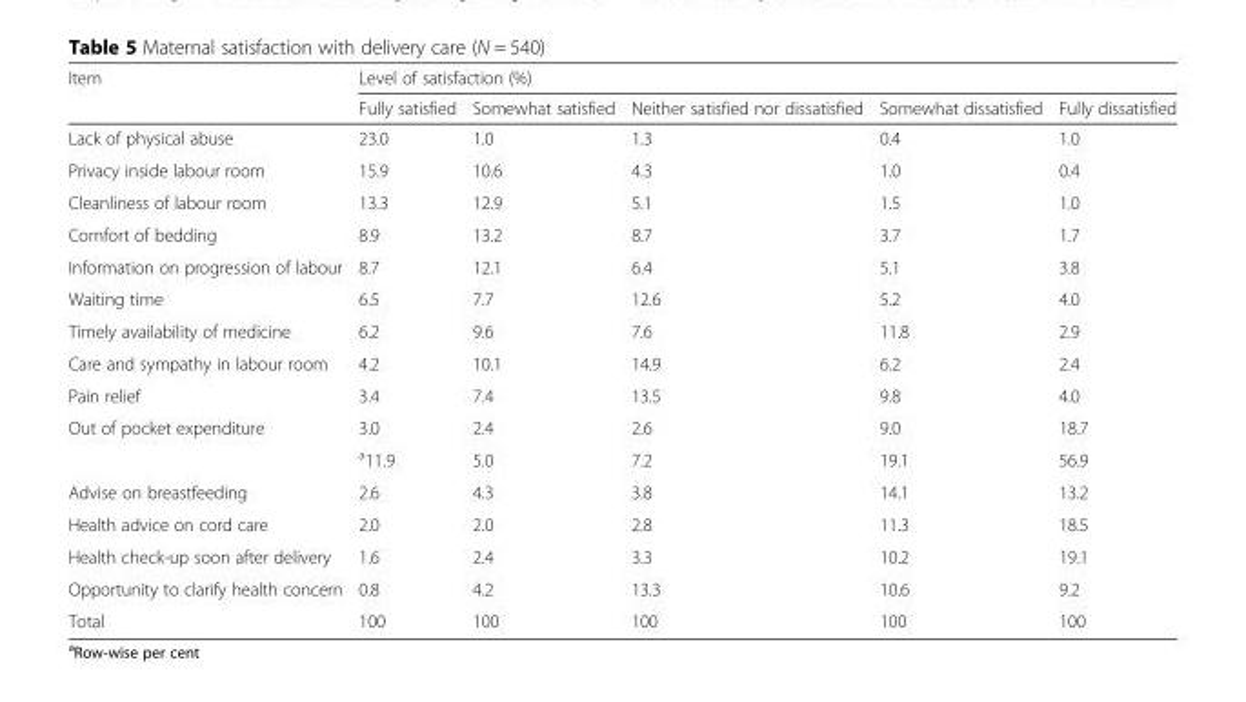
<table><thead><tr><td rowspan="2">Item</td><td colspan="5">Level of satisfaction (%)</td></tr><tr><td>Fully satisfied</td><td>Somewhat satisfied</td><td>Neither satisfied nor dissatisfied</td><td>Somewhat dissatisfied</td><td>Fully dissatisfied</td></tr></thead><tbody><tr><td>Lack of physical abuse</td><td>23.0</td><td>1.0</td><td>1.3</td><td>0.4</td><td>1.0</td></tr><tr><td>Privacy inside labour room</td><td>15.9</td><td>10.6</td><td>4.3</td><td>1.0</td><td>0.4</td></tr><tr><td>Cleanliness of labour room</td><td>13.3</td><td>12.9</td><td>5.1</td><td>1.5</td><td>1.0</td></tr><tr><td>Comfort of bedding</td><td>8.9</td><td>13.2</td><td>8.7</td><td>3.7</td><td>1.7</td></tr><tr><td>Information on progression of labour</td><td>8.7</td><td>12.1</td><td>6.4</td><td>5.1</td><td>3.8</td></tr><tr><td>Waiting time</td><td>6.5</td><td>7.7</td><td>12.6</td><td>5.2</td><td>4.0</td></tr><tr><td>Timely availability of medicine</td><td>6.2</td><td>9.6</td><td>7.6</td><td>11.8</td><td>2.9</td></tr><tr><td>Care and sympathy in labour room</td><td>4.2</td><td>10.1</td><td>14.9</td><td>6.2</td><td>2.4</td></tr><tr><td>Pain relief</td><td>3.4</td><td>7.4</td><td>13.5</td><td>9.8</td><td>4.0</td></tr><tr><td rowspan="2">Out of pocket expenditure</td><td>3.0</td><td>2.4</td><td>2.6</td><td>9.0</td><td>18.7</td></tr><tr><td><sup>a</sup>11.9</td><td>5.0</td><td>7.2</td><td>19.1</td><td>56.9</td></tr><tr><td>Advise on breastfeeding</td><td>2.6</td><td>4.3</td><td>3.8</td><td>14.1</td><td>13.2</td></tr><tr><td>Health advice on cord care</td><td>2.0</td><td>2.0</td><td>2.8</td><td>11.3</td><td>18.5</td></tr><tr><td>Health check-up soon after delivery</td><td>1.6</td><td>2.4</td><td>3.3</td><td>10.2</td><td>19.1</td></tr><tr><td>Opportunity to clarify health concern</td><td>0.8</td><td>4.2</td><td>13.3</td><td>10.6</td><td>9.2</td></tr><tr><td>Total</td><td>100</td><td>100</td><td>100</td><td>100</td><td>100</td></tr></tbody></table>